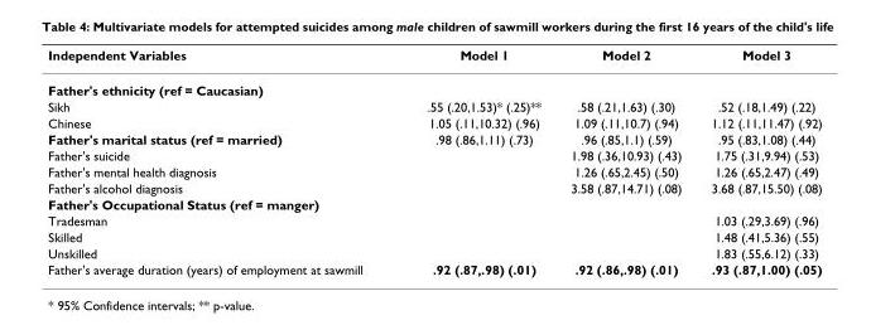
<table><thead><tr><td>Independent Variables</td><td>Model 1</td><td>Model 2</td><td>Model 3</td></tr></thead><tbody><tr><td colspan="4">Father&#x27;s ethnicity (ref = Caucasian)</td></tr><tr><td>Sikh</td><td>.55 (.20,1.53)* (.25)**</td><td>.58 (.21,1.63) (.30)</td><td>.52 (.18,1.49) (.22)</td></tr><tr><td>Chinese</td><td>1.05 (.11,10.32) (.96)</td><td>1.09 (.11,10.7) (.94)</td><td>1.12 (.11,11.47) (.92)</td></tr><tr><td>Father&#x27;s marital status (ref = married)</td><td>.98 (.86,1.11) (.73)</td><td>.96 (.85,1.1) (.59)</td><td>.95 (.83,1.08) (.44)</td></tr><tr><td>Father&#x27;s suicide</td><td></td><td>1.98 (.36,10.93) (.43)</td><td>1.75 (.31,9.94) (.53)</td></tr><tr><td>Father&#x27;s mental health diagnosis</td><td></td><td>1.26 (.65,2.45) (.50)</td><td>1.26 (.65,2.47) (.49)</td></tr><tr><td>Father&#x27;s alcohol diagnosis</td><td></td><td>3.58 (.87,14.71) (.08)</td><td>3.68 (.87,15.50) (.08)</td></tr><tr><td colspan="4">Father&#x27;s Occupational Status (ref = manger)</td></tr><tr><td>Tradesman</td><td></td><td></td><td>1.03 (.29,3.69) (.96)</td></tr><tr><td>Skilled</td><td></td><td></td><td>1.48 (.41,5.36) (.55)</td></tr><tr><td>Unskilled</td><td></td><td></td><td>1.83 (.55,6.12) (.33)</td></tr><tr><td>Father&#x27;s average duration (years) of employment at sawmill</td><td>.92 (.87,.98) (.01)</td><td>.92 (.86,.98) (.01)</td><td>.93 (.87,1.00) (.05)</td></tr></tbody></table>